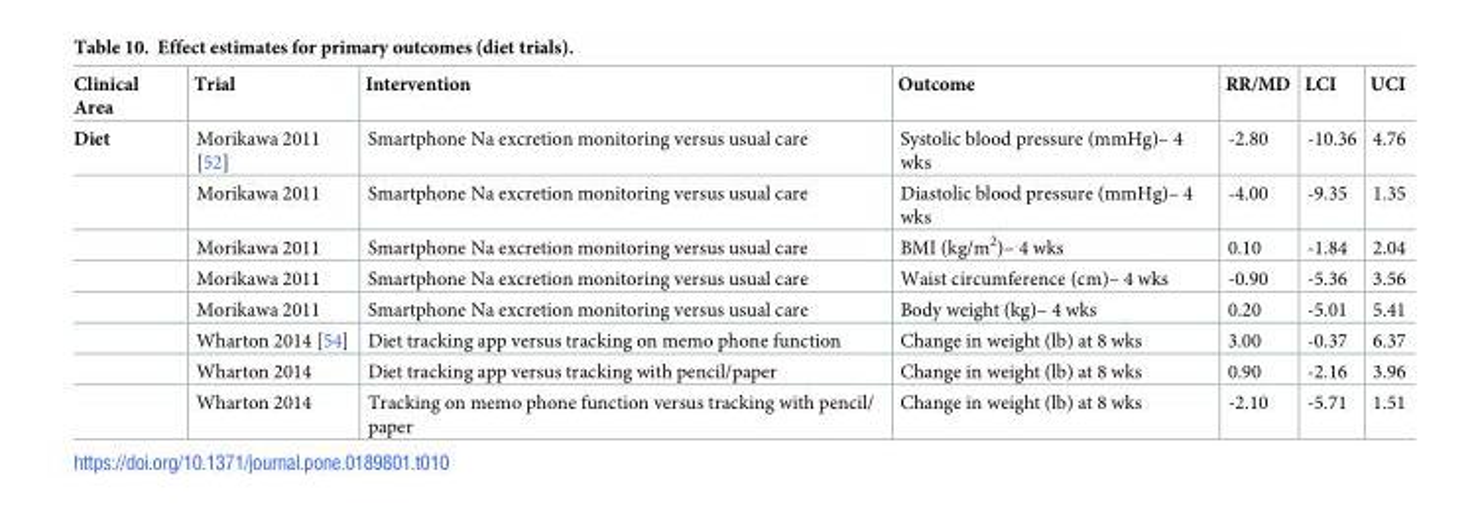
<table><thead><tr><td>Clinical Area</td><td>Trial</td><td>Intervention</td><td>Outcome</td><td>RR/MD</td><td>LCI</td><td>UCI</td></tr></thead><tbody><tr><td rowspan="8">Diet</td><td>Morikawa 2011 [52]</td><td>Smartphone Na excretion monitoring versus usual care</td><td>Systolic blood pressure (mmHg)– 4 wks</td><td>-2.80</td><td>-10.36</td><td>4.76</td></tr><tr><td>Morikawa 2011</td><td>Smartphone Na excretion monitoring versus usual care</td><td>Diastolic blood pressure (mmHg)– 4 wks</td><td>-4.00</td><td>-9.35</td><td>1.35</td></tr><tr><td>Morikawa 2011</td><td>Smartphone Na excretion monitoring versus usual care</td><td>BMI (kg/m<sup>2</sup>)– 4 wks</td><td>0.10</td><td>-1.84</td><td>2.04</td></tr><tr><td>Morikawa 2011</td><td>Smartphone Na excretion monitoring versus usual care</td><td>Waist circumference (cm)– 4 wks</td><td>-0.90</td><td>-5.36</td><td>3.56</td></tr><tr><td>Morikawa 2011</td><td>Smartphone Na excretion monitoring versus usual care</td><td>Body weight (kg)– 4 wks</td><td>0.20</td><td>-5.01</td><td>5.41</td></tr><tr><td>Wharton 2014 [54]</td><td>Diet tracking app versus tracking on memo phone function</td><td>Change in weight (lb) at 8 wks</td><td>3.00</td><td>-0.37</td><td>6.37</td></tr><tr><td>Wharton 2014</td><td>Diet tracking app versus tracking with pencil/paper</td><td>Change in weight (lb) at 8 wks</td><td>0.90</td><td>-2.16</td><td>3.96</td></tr><tr><td>Wharton 2014</td><td>Tracking on memo phone function versus tracking with pencil/ paper</td><td>Change in weight (lb) at 8 wks</td><td>-2.10</td><td>-5.71</td><td>1.51</td></tr></tbody></table>